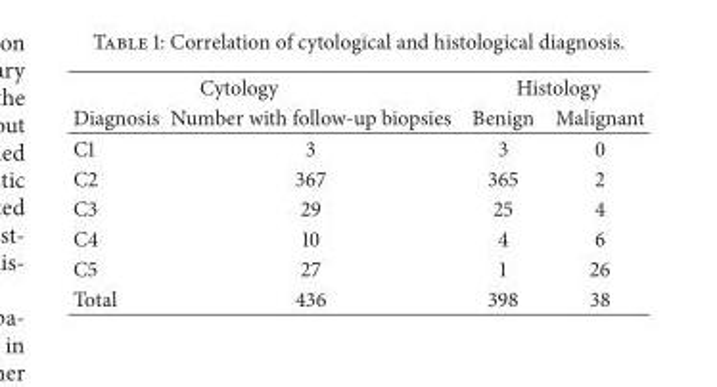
<table><thead><tr><td colspan="2">Cytology</td><td colspan="2">Histology</td></tr><tr><td>Diagnosis</td><td>Number with follow-up biopsies</td><td>Benign</td><td>Malignant</td></tr></thead><tbody><tr><td>C1</td><td>3</td><td>3</td><td>0</td></tr><tr><td>C2</td><td>367</td><td>365</td><td>2</td></tr><tr><td>C3</td><td>29</td><td>25</td><td>4</td></tr><tr><td>C4</td><td>10</td><td>4</td><td>6</td></tr><tr><td>C5</td><td>27</td><td>1</td><td>26</td></tr><tr><td>Total</td><td>436</td><td>398</td><td>38</td></tr></tbody></table>